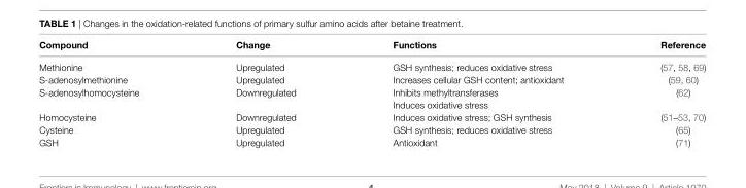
<table><thead><tr><td>Compound</td><td>Change</td><td>Functions</td><td>Reference</td></tr></thead><tbody><tr><td>Methionine</td><td>Upregulated</td><td>GSH synthesis; reduces oxidative stress</td><td>(57, 58, 69)</td></tr><tr><td>S-adenosylmethionine</td><td>Upregulated</td><td>Increases cellular GSH content; antioxidant</td><td>(59, 60)</td></tr><tr><td rowspan="2">S-adenosylhomocysteine</td><td rowspan="2">Downregulated</td><td>Inhibits methyltransferases</td><td>(62)</td></tr><tr><td>Induces oxidative stress</td><td></td></tr><tr><td>Homocysteine</td><td>Downregulated</td><td>Induces oxidative stress; GSH synthesis</td><td>(51–53, 70)</td></tr><tr><td>Cysteine</td><td>Upregulated</td><td>GSH synthesis; reduces oxidative stress</td><td>(65)</td></tr><tr><td>GSH</td><td>Upregulated</td><td>Antioxidant</td><td>(71)</td></tr></tbody></table>